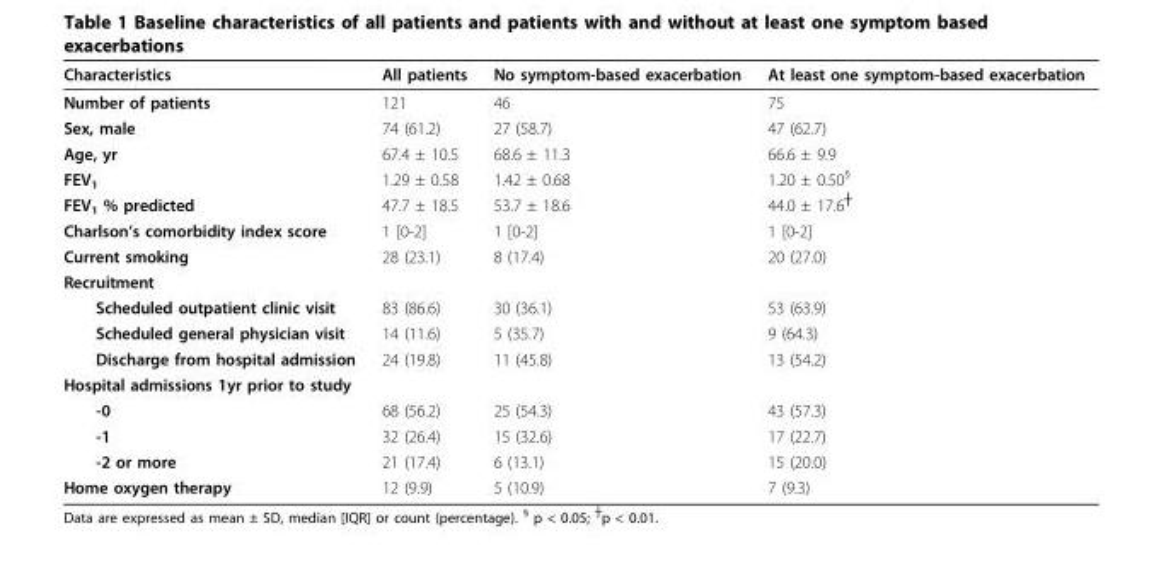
<table><thead><tr><td>Characteristics</td><td>All patients</td><td>No symptom-based exacerbation</td><td>At least one symptom-based exacerbation</td></tr></thead><tbody><tr><td>Number of patients</td><td>121</td><td>46</td><td>75</td></tr><tr><td>Sex, male</td><td>74 (61.2)</td><td>27 (58.7)</td><td>47 (62.7)</td></tr><tr><td>Age, yr</td><td>67.4 ± 10.5</td><td>68.6 ± 11.3</td><td>66.6 ± 9.9</td></tr><tr><td>FEV<sub>1</sub></td><td>1.29 ± 0.58</td><td>1.42 ± 0.68</td><td>1.20 ± 0.50<sup>§</sup></td></tr><tr><td>FEV<sub>1</sub> % predicted</td><td>47.7 ± 18.5</td><td>53.7 ± 18.6</td><td>44.0 ± 17.6<sup>┼</sup></td></tr><tr><td>Charlson’s comorbidity index score</td><td>1 [0-2]</td><td>1 [0-2]</td><td>1 [0-2]</td></tr><tr><td>Current smoking</td><td>28 (23.1)</td><td>8 (17.4)</td><td>20 (27.0)</td></tr><tr><td colspan="4">Recruitment</td></tr><tr><td>Scheduled outpatient clinic visit</td><td>83 (86.6)</td><td>30 (36.1)</td><td>53 (63.9)</td></tr><tr><td>Scheduled general physician visit</td><td>14 (11.6)</td><td>5 (35.7)</td><td>9 (64.3)</td></tr><tr><td>Discharge from hospital admission</td><td>24 (19.8)</td><td>11 (45.8)</td><td>13 (54.2)</td></tr><tr><td colspan="4">Hospital admissions 1yr prior to study</td></tr><tr><td>-0</td><td>68 (56.2)</td><td>25 (54.3)</td><td>43 (57.3)</td></tr><tr><td>-1</td><td>32 (26.4)</td><td>15 (32.6)</td><td>17 (22.7)</td></tr><tr><td>-2 or more</td><td>21 (17.4)</td><td>6 (13.1)</td><td>15 (20.0)</td></tr><tr><td>Home oxygen therapy</td><td>12 (9.9)</td><td>5 (10.9)</td><td>7 (9.3)</td></tr></tbody></table>